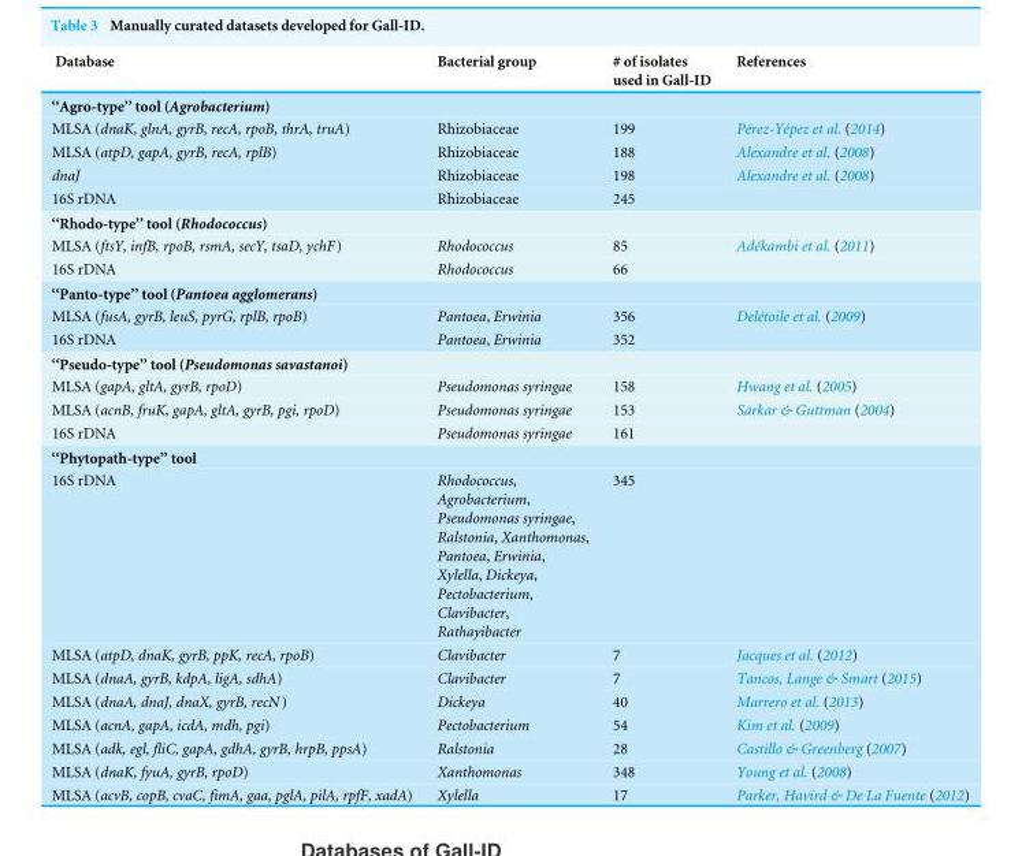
<table><thead><tr><td>Database</td><td>Bacterial group</td><td># of isolates used in Gall-ID</td><td>References</td></tr></thead><tbody><tr><td colspan="4">‘‘Agro-type’’ tool (Agrobacterium)</td></tr><tr><td>MLSA (dnaK, glnA, gyrB, recA, rpoB, thrA, truA)</td><td>Rhizobiaceae</td><td>199</td><td>Pérez-Yépez et al. (2014)</td></tr><tr><td>MLSA (atpD, gapA, gyrB, recA, rplB)</td><td>Rhizobiaceae</td><td>188</td><td>Alexandre et al. (2008)</td></tr><tr><td>dnaJ</td><td>Rhizobiaceae</td><td>198</td><td>Alexandre et al. (2008)</td></tr><tr><td>16S rDNA</td><td>Rhizobiaceae</td><td>245</td><td></td></tr><tr><td colspan="4">‘‘Rhodo-type’’ tool (Rhodococcus)</td></tr><tr><td>MLSA (ftsY, infB, rpoB, rsmA, secY, tsaD, ychF)</td><td>Rhodococcus</td><td>85</td><td>Adékambi et al. (2011)</td></tr><tr><td>16S rDNA</td><td>Rhodococcus</td><td>66</td><td></td></tr><tr><td colspan="4">‘‘Panto-type’’ tool (Pantoea agglomerans)</td></tr><tr><td>MLSA (fusA, gyrB, leuS, pyrG, rplB, rpoB)</td><td>Pantoea, Erwinia</td><td>356</td><td>Delétoile et al. (2009)</td></tr><tr><td>16S rDNA</td><td>Pantoea, Erwinia</td><td>352</td><td></td></tr><tr><td colspan="4">‘‘Pseudo-type’’ tool (Pseudomonas savastanoi)</td></tr><tr><td>MLSA (gapA, gltA, gyrB, rpoD)</td><td>Pseudomonas syringae</td><td>158</td><td>Hwang et al. (2005)</td></tr><tr><td>MLSA (acnB, fruK, gapA, gltA, gyrB, pgi, rpoD)</td><td>Pseudomonas syringae</td><td>153</td><td>Sarkar &amp; Guttman (2004)</td></tr><tr><td>16S rDNA</td><td>Pseudomonas syringae</td><td>161</td><td></td></tr><tr><td colspan="4">‘‘Phytopath-type’’ tool</td></tr><tr><td>16S rDNA</td><td>Rhodococcus, Agrobacterium, Pseudomonas syringae, Ralstonia, Xanthomonas, Pantoea, Erwinia, Xylella, Dickeya, Pectobacterium, Clavibacter, Rathayibacter</td><td>345</td><td></td></tr><tr><td>MLSA (atpD, dnaK, gyrB, ppK, recA, rpoB)</td><td>Clavibacter</td><td>7</td><td>Jacques et al. (2012)</td></tr><tr><td>MLSA (dnaA, gyrB, kdpA, ligA, sdhA)</td><td>Clavibacter</td><td>7</td><td>Tancos, Lange &amp; Smart (2015)</td></tr><tr><td>MLSA (dnaA, dnaJ, dnaX, gyrB, recN)</td><td>Dickeya</td><td>40</td><td>Marrero et al. (2013)</td></tr><tr><td>MLSA (acnA, gapA, icdA, mdh, pgi)</td><td>Pectobacterium</td><td>54</td><td>Kim et al. (2009)</td></tr><tr><td>MLSA (adk, egl, fliC, gapA, gdhA, gyrB, hrpB, ppsA)</td><td>Ralstonia</td><td>28</td><td>Castillo &amp; Greenberg (2007)</td></tr><tr><td>MLSA (dnaK, fyuA, gyrB, rpoD)</td><td>Xanthomonas</td><td>348</td><td>Young et al. (2008)</td></tr><tr><td>MLSA (acvB, copB, cvaC, fimA, gaa, pglA, pilA, rpfF, xadA)</td><td>Xylella</td><td>17</td><td>Parker, Havird &amp; De La Fuente (2012)</td></tr></tbody></table>